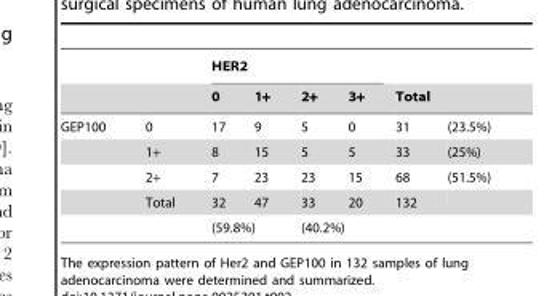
<table><thead><tr><td rowspan="2"></td><td rowspan="2"></td><td colspan="4">HER2</td><td></td><td></td></tr><tr><td>0</td><td>1+</td><td>2+</td><td>3+</td><td colspan="2">Total</td></tr></thead><tbody><tr><td rowspan="5">GEP100</td><td>0</td><td>17</td><td>9</td><td>5</td><td>0</td><td>31</td><td>(23.5%)</td></tr><tr><td>1+</td><td>8</td><td>15</td><td>5</td><td>5</td><td>33</td><td>(25%)</td></tr><tr><td>2+</td><td>7</td><td>23</td><td>23</td><td>15</td><td>68</td><td>(51.5%)</td></tr><tr><td>Total</td><td>32</td><td>47</td><td>33</td><td>20</td><td>132</td><td></td></tr><tr><td></td><td colspan="2">(59.8%)</td><td colspan="2">(40.2%)</td><td></td><td></td></tr></tbody></table>